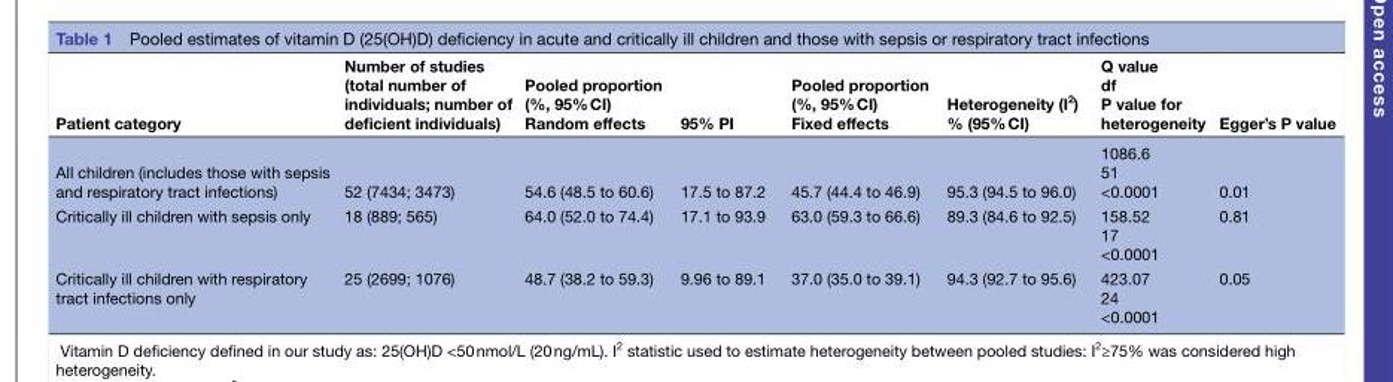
<table><thead><tr><td>Patient category</td><td>Number of studies (total number of individuals; number of deficient individuals)</td><td>Pooled proportion (%, 95% CI) Random effects</td><td>95% PI</td><td>Pooled proportion (%, 95% CI) Fixed effects</td><td>Heterogeneity (I<sup>2</sup>) % (95% CI)</td><td>Q value df P value for heterogeneity</td><td>Egger’s P value</td></tr></thead><tbody><tr><td>All children (includes those with sepsis and respiratory tract infections)</td><td>52 (7434; 3473)</td><td>54.6 (48.5 to 60.6)</td><td>17.5 to 87.2</td><td>45.7 (44.4 to 46.9)</td><td>95.3 (94.5 to 96.0)</td><td>1086.6 51 &lt;0.0001</td><td>0.01</td></tr><tr><td>Critically ill children with sepsis only</td><td>18 (889; 565)</td><td>64.0 (52.0 to 74.4)</td><td>17.1 to 93.9</td><td>63.0 (59.3 to 66.6)</td><td>89.3 (84.6 to 92.5)</td><td>158.52 17 &lt;0.0001</td><td>0.81</td></tr><tr><td>Critically ill children with respiratory tract infections only</td><td>25 (2699; 1076)</td><td>48.7 (38.2 to 59.3)</td><td>9.96 to 89.1</td><td>37.0 (35.0 to 39.1)</td><td>94.3 (92.7 to 95.6)</td><td>423.07 24 &lt;0.0001</td><td>0.05</td></tr></tbody></table>